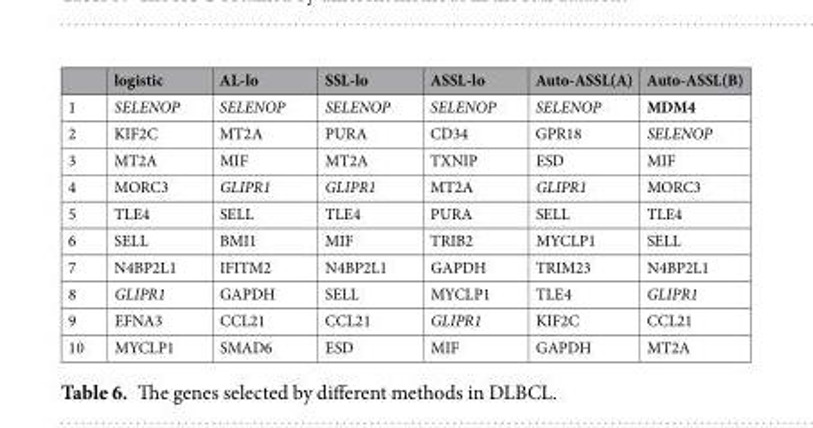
<table><thead><tr><td></td><td>logistic</td><td>AL-lo</td><td>SSL-lo</td><td>ASSL-lo</td><td>Auto-ASSL(A)</td><td>Auto-ASSL(B)</td></tr></thead><tbody><tr><td>1</td><td>SELENOP</td><td>SELENOP</td><td>SELENOP</td><td>SELENOP</td><td>SELENOP</td><td>MDM4</td></tr><tr><td>2</td><td>KIF2C</td><td>MT2A</td><td>PURA</td><td>CD34</td><td>GPR18</td><td>SELENOP</td></tr><tr><td>3</td><td>MT2A</td><td>MIF</td><td>MT2A</td><td>TXNIP</td><td>ESD</td><td>MIF</td></tr><tr><td>4</td><td>MORC3</td><td>GLIPR1</td><td>GLIPR1</td><td>MT2A</td><td>GLIPR1</td><td>MORC3</td></tr><tr><td>5</td><td>TLE4</td><td>SELL</td><td>TLE4</td><td>PURA</td><td>SELL</td><td>TLE4</td></tr><tr><td>6</td><td>SELL</td><td>BMI1</td><td>MIF</td><td>TRIB2</td><td>MYCLP1</td><td>SELL</td></tr><tr><td>7</td><td>N4BP2L1</td><td>IFITM2</td><td>N4BP2L1</td><td>GAPDH</td><td>TRIM23</td><td>N4BP2L1</td></tr><tr><td>8</td><td>GLIPR1</td><td>GAPDH</td><td>SELL</td><td>MYCLP1</td><td>TLE4</td><td>GLIPR1</td></tr><tr><td>9</td><td>EFNA3</td><td>CCL21</td><td>CCL21</td><td>GLIPR1</td><td>KIF2C</td><td>CCL21</td></tr><tr><td>10</td><td>MYCLP1</td><td>SMAD6</td><td>ESD</td><td>MIF</td><td>GAPDH</td><td>MT2A</td></tr></tbody></table>